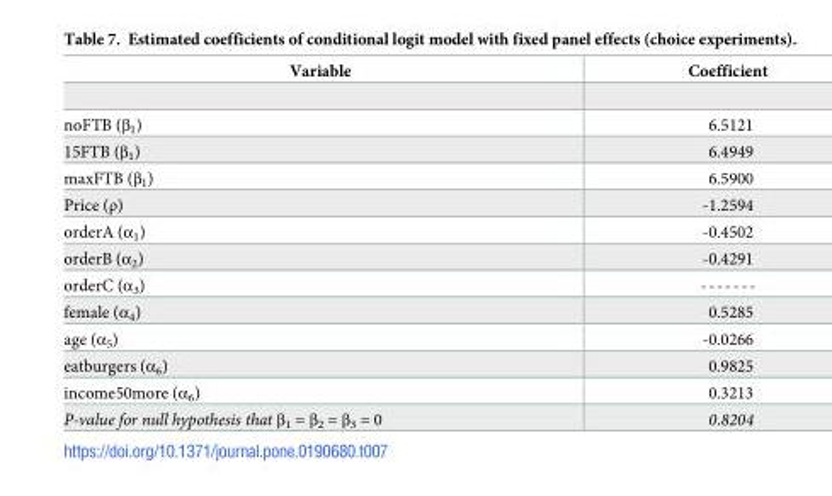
<table><thead><tr><td>Variable</td><td>Coefficient</td></tr></thead><tbody><tr><td>noFTB (β<sub>1</sub>)</td><td>6.5121</td></tr><tr><td>15FTB (β<sub>1</sub>)</td><td>6.4949</td></tr><tr><td>maxFTB (β<sub>1</sub>)</td><td>6.5900</td></tr><tr><td>Price (ρ)</td><td>-1.2594</td></tr><tr><td>orderA (α<sub>1</sub>)</td><td>-0.4502</td></tr><tr><td>orderB (α<sub>2</sub>)</td><td>-0.4291</td></tr><tr><td>orderC (α<sub>3</sub>)</td><td>-------</td></tr><tr><td>female (α<sub>4</sub>)</td><td>0.5285</td></tr><tr><td>age (α<sub>5</sub>)</td><td>-0.0266</td></tr><tr><td>eatburgers (α<sub>6</sub>)</td><td>0.9825</td></tr><tr><td>income50more (α<sub>6</sub>)</td><td>0.3213</td></tr><tr><td>P-value for null hypothesis that β<sub>1</sub> = β<sub>2</sub> = β<sub>3</sub> = 0</td><td>0.8204</td></tr></tbody></table>